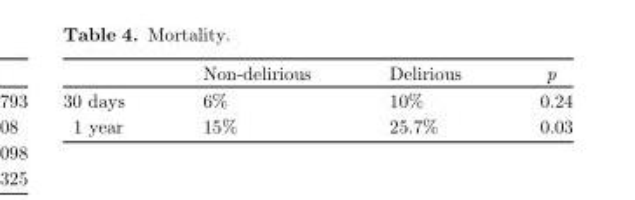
<table><thead><tr><td></td><td>Non-delirious</td><td>Delirious</td><td>p</td></tr></thead><tbody><tr><td>30 days</td><td>6%</td><td>10%</td><td>0.24</td></tr><tr><td>1 year</td><td>15%</td><td>25.7%</td><td>0.03</td></tr></tbody></table>